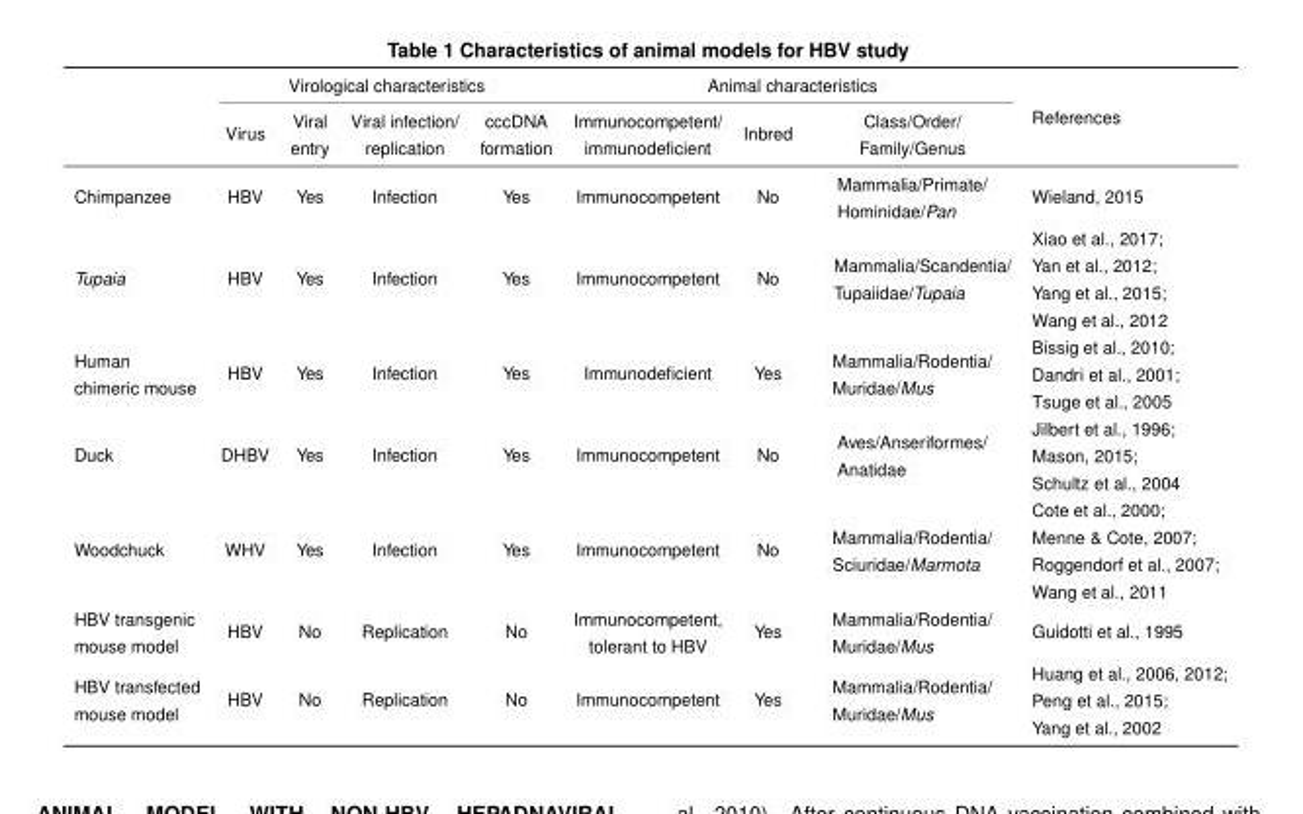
<table><thead><tr><td rowspan="2"></td><td colspan="4">Virological characteristics</td><td colspan="3">Animal characteristics</td><td rowspan="2">References</td></tr><tr><td>Virus</td><td>Viral entry</td><td>Viral infection/ replication</td><td>cccDNA formation</td><td>Immunocompetent/ immunodeficient</td><td>Inbred</td><td>Class/Order/ Family/Genus</td></tr></thead><tbody><tr><td>Chimpanzee</td><td>HBV</td><td>Yes</td><td>Infection</td><td>Yes</td><td>Immunocompetent</td><td>No</td><td>Mammalia/Primate/ Hominidae/Pan</td><td>Wieland, 2015</td></tr><tr><td>Tupaia</td><td>HBV</td><td>Yes</td><td>Infection</td><td>Yes</td><td>Immunocompetent</td><td>No</td><td>Mammalia/Scandentia/ Tupaiidae/Tupaia</td><td>Xiao et al., 2017; Yan et al., 2012; Yang et al., 2015; Wang et al., 2012</td></tr><tr><td>Human chimeric mouse</td><td>HBV</td><td>Yes</td><td>Infection</td><td>Yes</td><td>Immunodeficient</td><td>Yes</td><td>Mammalia/Rodentia/ Muridae/Mus</td><td>Bissig et al., 2010; Dandri et al., 2001; Tsuge et al., 2005</td></tr><tr><td>Duck</td><td>DHBV</td><td>Yes</td><td>Infection</td><td>Yes</td><td>Immunocompetent</td><td>No</td><td>Aves/Anseriformes/ Anatidae</td><td>Jilbert et al., 1996; Mason, 2015; Schultz et al., 2004</td></tr><tr><td>Woodchuck</td><td>WHV</td><td>Yes</td><td>Infection</td><td>Yes</td><td>Immunocompetent</td><td>No</td><td>Mammalia/Rodentia/ Sciuridae/Marmota</td><td>Cote et al., 2000; Menne &amp; Cote, 2007; Roggendorf et al., 2007; Wang et al., 2011</td></tr><tr><td>HBV transgenic mouse model</td><td>HBV</td><td>No</td><td>Replication</td><td>No</td><td>Immunocompetent, tolerant to HBV</td><td>Yes</td><td>Mammalia/Rodentia/ Muridae/Mus</td><td>Guidotti et al., 1995</td></tr><tr><td>HBV transfected mouse model</td><td>HBV</td><td>No</td><td>Replication</td><td>No</td><td>Immunocompetent</td><td>Yes</td><td>Mammalia/Rodentia/ Muridae/Mus</td><td>Huang et al., 2006, 2012; Peng et al., 2015; Yang et al., 2002</td></tr></tbody></table>